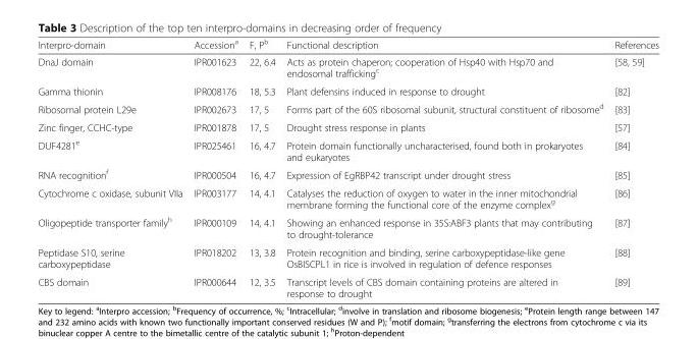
<table><thead><tr><td>Interpro-domain</td><td>Accession<sup>a</sup></td><td>F, P<sup>b</sup></td><td>Functional description</td><td>References</td></tr></thead><tbody><tr><td>DnaJ domain</td><td>IPR001623</td><td>22, 6.4</td><td>Acts as protein chaperon; cooperation of Hsp40 with Hsp70 and endosomal trafficking<sup>c</sup></td><td>[58, 59]</td></tr><tr><td>Gamma thionin</td><td>IPR008176</td><td>18, 5.3</td><td>Plant defensins induced in response to drought</td><td>[82]</td></tr><tr><td>Ribosomal protein L29e</td><td>IPR002673</td><td>17, 5</td><td>Forms part of the 60S ribosomal subunit, structural constituent of ribosome<sup>d</sup></td><td>[83]</td></tr><tr><td>Zinc finger, CCHC-type</td><td>IPR001878</td><td>17, 5</td><td>Drought stress response in plants</td><td>[57]</td></tr><tr><td>DUF4281<sup>e</sup></td><td>IPR025461</td><td>16, 4.7</td><td>Protein domain functionally uncharacterised, found both in prokaryotes and eukaryotes</td><td>[84]</td></tr><tr><td>RNA recognition<sup>f</sup></td><td>IPR000504</td><td>16, 4.7</td><td>Expression of EgRBP42 transcript under drought stress</td><td>[85]</td></tr><tr><td>Cytochrome c oxidase, subunit VIIa</td><td>IPR003177</td><td>14, 4.1</td><td>Catalyses the reduction of oxygen to water in the inner mitochondrial membrane forming the functional core of the enzyme complex<sup>g</sup></td><td>[86]</td></tr><tr><td>Oligopeptide transporter family<sup>h</sup></td><td>IPR000109</td><td>14, 4.1</td><td>Showing an enhanced response in 35S:ABF3 plants that may contributing to drought-tolerance</td><td>[87]</td></tr><tr><td>Peptidase S10, serine carboxypeptidase</td><td>IPR018202</td><td>13, 3.8</td><td>Protein recognition and binding, serine carboxypeptidase-like gene OsBISCPL1 in rice is involved in regulation of defence responses</td><td>[88]</td></tr><tr><td>CBS domain</td><td>IPR000644</td><td>12, 3.5</td><td>Transcript levels of CBS domain containing proteins are altered in response to drought</td><td>[89]</td></tr></tbody></table>